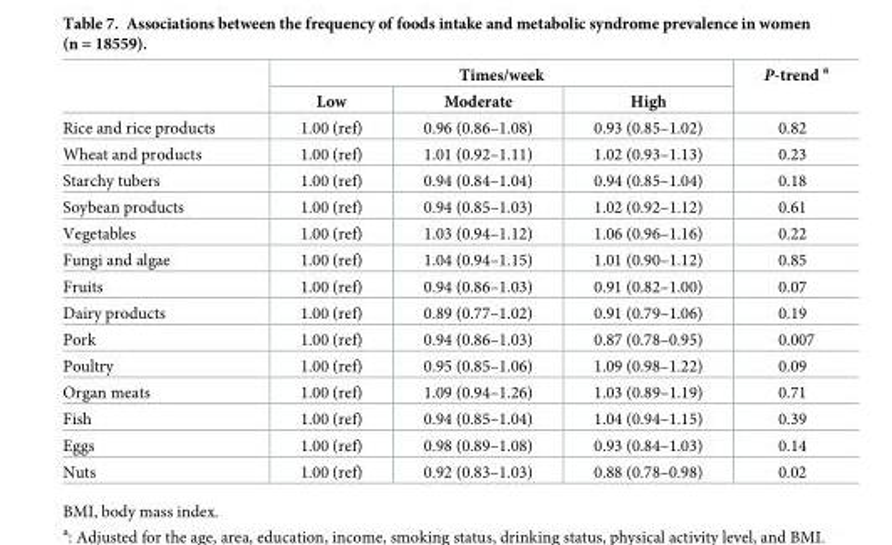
<table><thead><tr><td rowspan="2"></td><td colspan="3">Times/week</td><td rowspan="2">P-trend <sup>a</sup></td></tr><tr><td>Low</td><td>Moderate</td><td>High</td></tr></thead><tbody><tr><td>Rice and rice products</td><td>1.00 (ref)</td><td>0.96 (0.86–1.08)</td><td>0.93 (0.85–1.02)</td><td>0.82</td></tr><tr><td>Wheat and products</td><td>1.00 (ref)</td><td>1.01 (0.92–1.11)</td><td>1.02 (0.93–1.13)</td><td>0.23</td></tr><tr><td>Starchy tubers</td><td>1.00 (ref)</td><td>0.94 (0.84–1.04)</td><td>0.94 (0.85–1.04)</td><td>0.18</td></tr><tr><td>Soybean products</td><td>1.00 (ref)</td><td>0.94 (0.85–1.03)</td><td>1.02 (0.92–1.12)</td><td>0.61</td></tr><tr><td>Vegetables</td><td>1.00 (ref)</td><td>1.03 (0.94–1.12)</td><td>1.06 (0.96–1.16)</td><td>0.22</td></tr><tr><td>Fungi and algae</td><td>1.00 (ref)</td><td>1.04 (0.94–1.15)</td><td>1.01 (0.90–1.12)</td><td>0.85</td></tr><tr><td>Fruits</td><td>1.00 (ref)</td><td>0.94 (0.86–1.03)</td><td>0.91 (0.82–1.00)</td><td>0.07</td></tr><tr><td>Dairy products</td><td>1.00 (ref)</td><td>0.89 (0.77–1.02)</td><td>0.91 (0.79–1.06)</td><td>0.19</td></tr><tr><td>Pork</td><td>1.00 (ref)</td><td>0.94 (0.86–1.03)</td><td>0.87 (0.78–0.95)</td><td>0.007</td></tr><tr><td>Poultry</td><td>1.00 (ref)</td><td>0.95 (0.85–1.06)</td><td>1.09 (0.98–1.22)</td><td>0.09</td></tr><tr><td>Organ meats</td><td>1.00 (ref)</td><td>1.09 (0.94–1.26)</td><td>1.03 (0.89–1.19)</td><td>0.71</td></tr><tr><td>Fish</td><td>1.00 (ref)</td><td>0.94 (0.85–1.04)</td><td>1.04 (0.94–1.15)</td><td>0.39</td></tr><tr><td>Eggs</td><td>1.00 (ref)</td><td>0.98 (0.89–1.08)</td><td>0.93 (0.84–1.03)</td><td>0.14</td></tr><tr><td>Nuts</td><td>1.00 (ref)</td><td>0.92 (0.83–1.03)</td><td>0.88 (0.78–0.98)</td><td>0.02</td></tr></tbody></table>